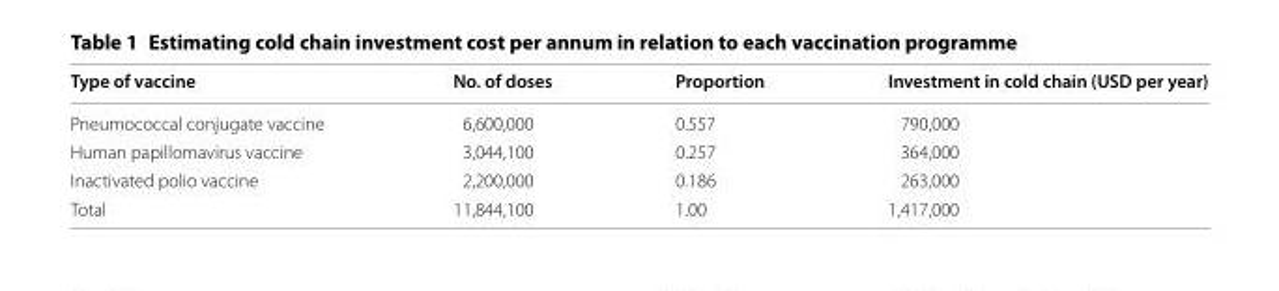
<table><thead><tr><td>Type of vaccine</td><td>No. of doses</td><td>Proportion</td><td>Investment in cold chain (USD per year)</td></tr></thead><tbody><tr><td>Pneumococcal conjugate vaccine</td><td>6,600,000</td><td>0.557</td><td>790,000</td></tr><tr><td>Human papillomavirus vaccine</td><td>3,044,100</td><td>0.257</td><td>364,000</td></tr><tr><td>Inactivated polio vaccine</td><td>2,200,000</td><td>0.186</td><td>263,000</td></tr><tr><td>Total</td><td>11,844,100</td><td>1.00</td><td>1,417,000</td></tr></tbody></table>